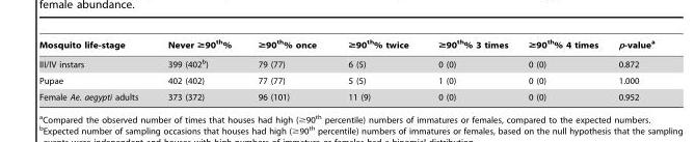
<table><thead><tr><td>Mosquito life-stage</td><td>Never ≥90<sup>th</sup>%</td><td>≥90<sup>th</sup>% once</td><td>≥90<sup>th</sup>% twice</td><td>≥90<sup>th</sup>% 3 times</td><td>≥90<sup>th</sup>% 4 times</td><td>p-value<sup>a</sup></td></tr></thead><tbody><tr><td>III/IV instars</td><td>399 (402<sup>b</sup>)</td><td>79 (77)</td><td>6 (5)</td><td>0 (0)</td><td>0 (0)</td><td>0.872</td></tr><tr><td>Pupae</td><td>402 (402)</td><td>77 (77)</td><td>5 (5)</td><td>1 (0)</td><td>0 (0)</td><td>1.000</td></tr><tr><td>Female Ae. aegypti adults</td><td>373 (372)</td><td>96 (101)</td><td>11 (9)</td><td>0 (0)</td><td>0 (0)</td><td>0.952</td></tr></tbody></table>